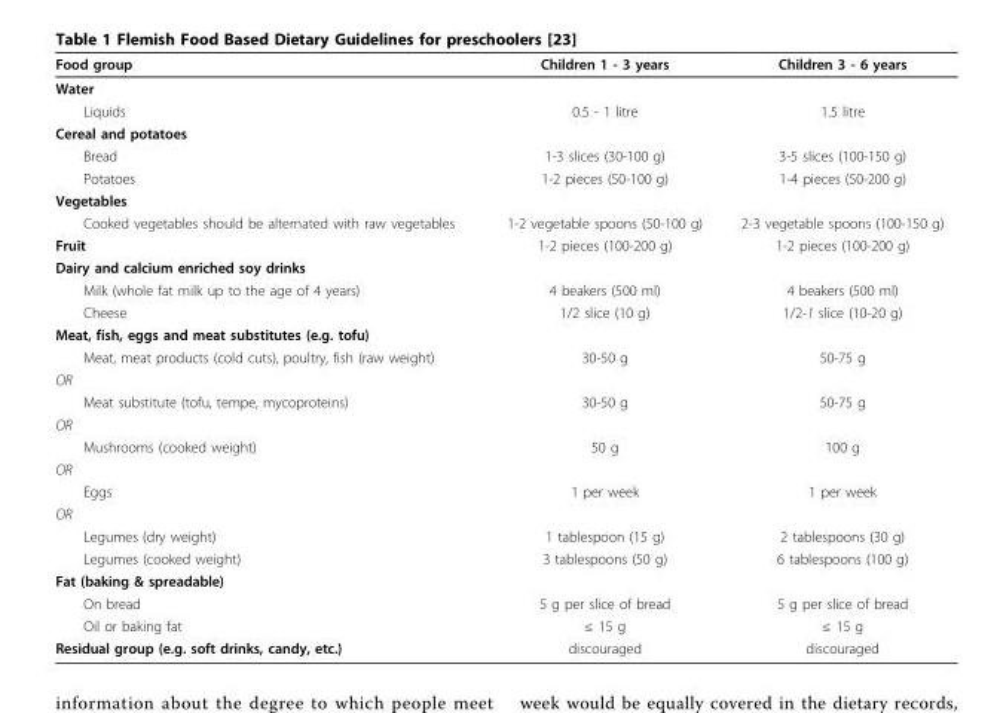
<table><thead><tr><td>Food group</td><td>Children 1 - 3 years</td><td>Children 3 - 6 years</td></tr></thead><tbody><tr><td colspan="3">Water</td></tr><tr><td>Liquids</td><td>0.5 - 1 litre</td><td>1.5 litre</td></tr><tr><td colspan="3">Cereal and potatoes</td></tr><tr><td>Bread</td><td>1-3 slices (30-100 g)</td><td>3-5 slices (100-150 g)</td></tr><tr><td>Potatoes</td><td>1-2 pieces (50-100 g)</td><td>1-4 pieces (50-200 g)</td></tr><tr><td colspan="3">Vegetables</td></tr><tr><td>Cooked vegetables should be alternated with raw vegetables</td><td>1-2 vegetable spoons (50-100 g)</td><td>2-3 vegetable spoons (100-150 g)</td></tr><tr><td>Fruit</td><td>1-2 pieces (100-200 g)</td><td>1-2 pieces (100-200 g)</td></tr><tr><td colspan="3">Dairy and calcium enriched soy drinks</td></tr><tr><td>Milk (whole fat milk up to the age of 4 years)</td><td>4 beakers (500 ml)</td><td>4 beakers (500 ml)</td></tr><tr><td>Cheese</td><td>1/2 slice (10 g)</td><td>1/2-1 slice (10-20 g)</td></tr><tr><td colspan="3">Meat, fish, eggs and meat substitutes (e.g. tofu)</td></tr><tr><td>Meat, meat products (cold cuts), poultry, fish (raw weight)</td><td>30-50 g</td><td>50-75 g</td></tr><tr><td colspan="3">OR</td></tr><tr><td>Meat substitute (tofu, tempe, mycoproteins)</td><td>30-50 g</td><td>50-75 g</td></tr><tr><td colspan="3">OR</td></tr><tr><td>Mushrooms (cooked weight)</td><td>50 g</td><td>100 g</td></tr><tr><td colspan="3">OR</td></tr><tr><td>Eggs</td><td>1 per week</td><td>1 per week</td></tr><tr><td colspan="3">OR</td></tr><tr><td>Legumes (dry weight)</td><td>1 tablespoon (15 g)</td><td>2 tablespoons (30 g)</td></tr><tr><td>Legumes (cooked weight)</td><td>3 tablespoons (50 g)</td><td>6 tablespoons (100 g)</td></tr><tr><td colspan="3">Fat (baking &amp; spreadable)</td></tr><tr><td>On bread</td><td>5 g per slice of bread</td><td>5 g per slice of bread</td></tr><tr><td>Oil or baking fat</td><td>≤ 15 g</td><td>≤ 15 g</td></tr><tr><td>Residual group (e.g. soft drinks, candy, etc.)</td><td>discouraged</td><td>discouraged</td></tr></tbody></table>